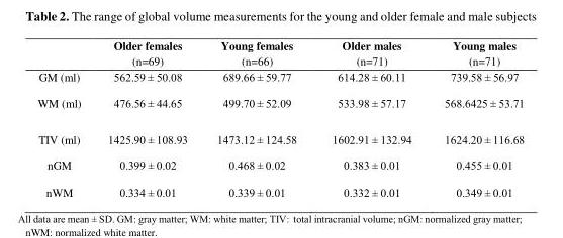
<table><thead><tr><td></td><td>Older females (n=69)</td><td>Young females (n=66)</td><td>Older males (n=71)</td><td>Young males (n=71)</td></tr></thead><tbody><tr><td>GM (ml)</td><td>562.59 ± 50.08</td><td>689.66 ± 59.77</td><td>614.28 ± 60.11</td><td>739.58 ± 56.97</td></tr><tr><td>WM (ml)</td><td>476.56 ± 44.65</td><td>499.70 ± 52.09</td><td>533.98 ± 57.17</td><td>568.6425 ± 53.71</td></tr><tr><td>TIV (ml)</td><td>1425.90 ± 108.93</td><td>1473.12 ± 124.58</td><td>1602.91 ± 132.94</td><td>1624.20 ± 116.68</td></tr><tr><td>nGM</td><td>0.399 ± 0.02</td><td>0.468 ± 0.02</td><td>0.383 ± 0.01</td><td>0.455 ± 0.01</td></tr><tr><td>nWM</td><td>0.334 ± 0.01</td><td>0.339 ± 0.01</td><td>0.332 ± 0.01</td><td>0.349 ± 0.01</td></tr></tbody></table>